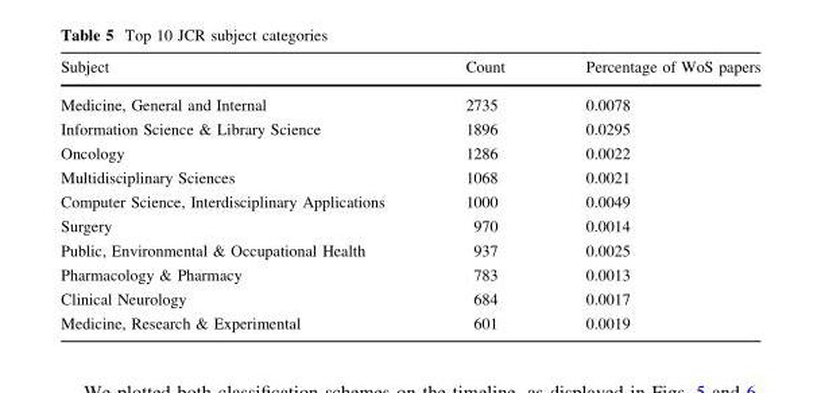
<table><thead><tr><td>Subject</td><td>Count</td><td>Percentage of WoS papers</td></tr></thead><tbody><tr><td>Medicine, General and Internal</td><td>2735</td><td>0.0078</td></tr><tr><td>Information Science &amp; Library Science</td><td>1896</td><td>0.0295</td></tr><tr><td>Oncology</td><td>1286</td><td>0.0022</td></tr><tr><td>Multidisciplinary Sciences</td><td>1068</td><td>0.0021</td></tr><tr><td>Computer Science, Interdisciplinary Applications</td><td>1000</td><td>0.0049</td></tr><tr><td>Surgery</td><td>970</td><td>0.0014</td></tr><tr><td>Public, Environmental &amp; Occupational Health</td><td>937</td><td>0.0025</td></tr><tr><td>Pharmacology &amp; Pharmacy</td><td>783</td><td>0.0013</td></tr><tr><td>Clinical Neurology</td><td>684</td><td>0.0017</td></tr><tr><td>Medicine, Research &amp; Experimental</td><td>601</td><td>0.0019</td></tr></tbody></table>